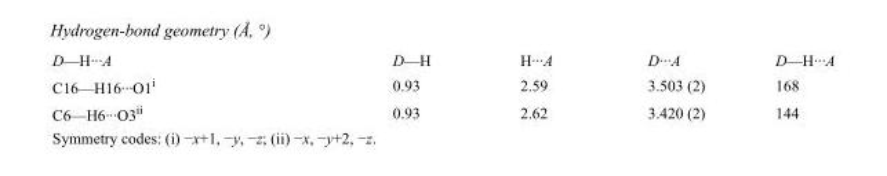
<table><tbody><tr><td>D—H···A</td><td>D—H</td><td>H···A</td><td>D···A</td><td>D—H···A</td></tr><tr><td>C16—H16···O1<sup>i</sup></td><td>0.93</td><td>2.59</td><td>3.503 (2)</td><td>168</td></tr><tr><td>C6—H6···O3<sup>ii</sup></td><td>0.93</td><td>2.62</td><td>3.420 (2)</td><td>144</td></tr></tbody></table>